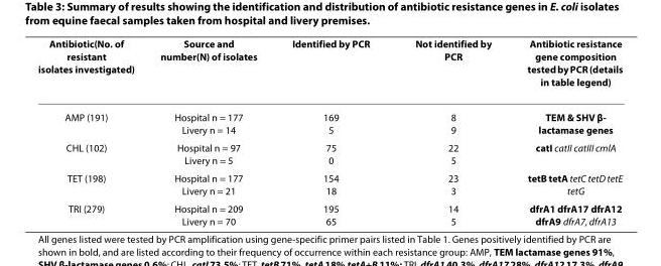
<table><thead><tr><td>Antibiotic(No. of resistant isolates investigated)</td><td>Source and number(N) of isolates</td><td>Identified by PCR</td><td>Not identified by PCR</td><td>Antibiotic resistance gene composition tested by PCR (details in table legend)</td></tr></thead><tbody><tr><td>AMP (191)</td><td>Hospital n = 177 Livery n = 14</td><td>169 5</td><td>8 9</td><td>TEM &amp; SHV β- lactamase genes</td></tr><tr><td>CHL (102)</td><td>Hospital n = 97 Livery n = 5</td><td>75 0</td><td>22 5</td><td>catI catII catIII cmlA</td></tr><tr><td>TET (198)</td><td>Hospital n = 177 Livery n = 21</td><td>154 18</td><td>23 3</td><td>tetB tetA tetC tetD tetE tetG</td></tr><tr><td>TRI (279)</td><td>Hospital n = 209 Livery n = 70</td><td>195 65</td><td>14 5</td><td>dfrA1 dfrA17 dfrA12 dfrA9 dfrA7, dfrA13</td></tr></tbody></table>